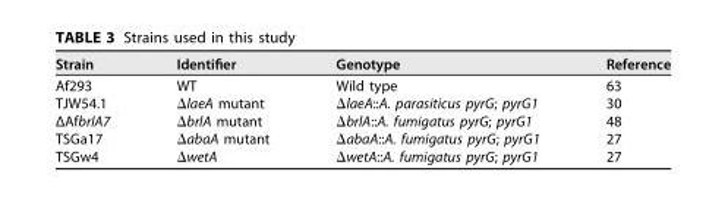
<table><thead><tr><td>Strain</td><td>Identifier</td><td>Genotype</td><td>Reference</td></tr></thead><tbody><tr><td>Af293</td><td>WT</td><td>Wild type</td><td>63</td></tr><tr><td>TJW54.1</td><td>ΔlaeA mutant</td><td>ΔlaeA::A. parasiticus pyrG; pyrG1</td><td>30</td></tr><tr><td>ΔAfbrlA7</td><td>ΔbrlA mutant</td><td>ΔbrlA::A. fumigatus pyrG; pyrG1</td><td>48</td></tr><tr><td>TSGa17</td><td>ΔabaA mutant</td><td>ΔabaA::A. fumigatus pyrG; pyrG1</td><td>27</td></tr><tr><td>TSGw4</td><td>ΔwetA</td><td>ΔwetA::A. fumigatus pyrG; pyrG1</td><td>27</td></tr></tbody></table>